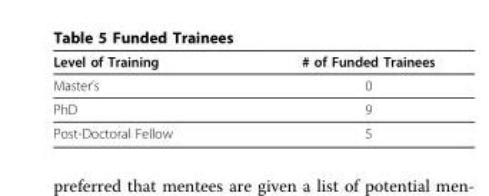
<table><thead><tr><td>Level of Training</td><td># of Funded Trainees</td></tr></thead><tbody><tr><td>Master’s</td><td>0</td></tr><tr><td>PhD</td><td>9</td></tr><tr><td>Post-Doctoral Fellow</td><td>5</td></tr></tbody></table>